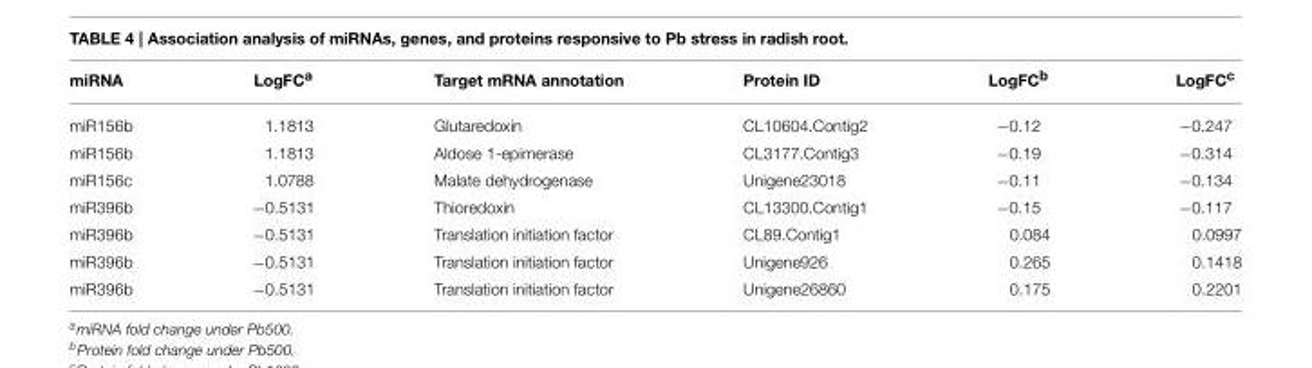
<table><thead><tr><td>miRNA</td><td>LogFC<sup>a</sup></td><td>Target mRNA annotation</td><td>Protein ID</td><td>LogFC<sup>b</sup></td><td>LogFC<sup>c</sup></td></tr></thead><tbody><tr><td>miR156b</td><td>1.1813</td><td>Glutaredoxin</td><td>CL10604.Contig2</td><td>−0.12</td><td>−0.247</td></tr><tr><td>miR156b</td><td>1.1813</td><td>Aldose 1-epimerase</td><td>CL3177.Contig3</td><td>−0.19</td><td>−0.314</td></tr><tr><td>miR156c</td><td>1.0788</td><td>Malate dehydrogenase</td><td>Unigene23018</td><td>−0.11</td><td>−0.134</td></tr><tr><td>miR396b</td><td>−0.5131</td><td>Thioredoxin</td><td>CL13300.Contig1</td><td>−0.15</td><td>−0.117</td></tr><tr><td>miR396b</td><td>−0.5131</td><td>Translation initiation factor</td><td>CL89.Contig1</td><td>0.084</td><td>0.0997</td></tr><tr><td>miR396b</td><td>−0.5131</td><td>Translation initiation factor</td><td>Unigene926</td><td>0.265</td><td>0.1418</td></tr><tr><td>miR396b</td><td>−0.5131</td><td>Translation initiation factor</td><td>Unigene26860</td><td>0.175</td><td>0.2201</td></tr></tbody></table>